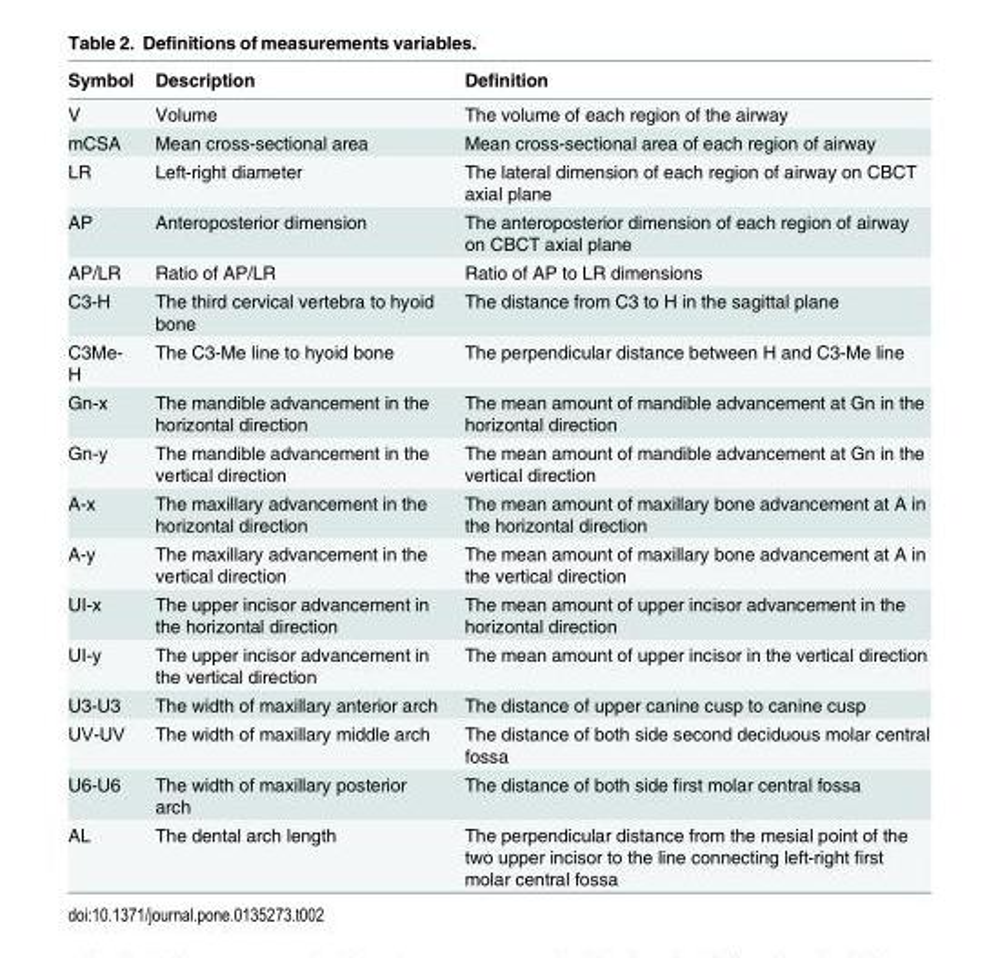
<table><thead><tr><td>Symbol</td><td>Description</td><td>Definition</td></tr></thead><tbody><tr><td>V</td><td>Volume</td><td>The volume of each region of the airway</td></tr><tr><td>mCSA</td><td>Mean cross-sectional area</td><td>Mean cross-sectional area of each region of airway</td></tr><tr><td>LR</td><td>Left-right diameter</td><td>The lateral dimension of each region of airway on CBCT axial plane</td></tr><tr><td>AP</td><td>Anteroposterior dimension</td><td>The anteroposterior dimension of each region of airway on CBCT axial plane</td></tr><tr><td>AP/LR</td><td>Ratio of AP/LR</td><td>Ratio of AP to LR dimensions</td></tr><tr><td>C3-H</td><td>The third cervical vertebra to hyoid bone</td><td>The distance from C3 to H in the sagittal plane</td></tr><tr><td>C3Me- H</td><td>The C3-Me line to hyoid bone</td><td>The perpendicular distance between H and C3-Me line</td></tr><tr><td>Gn-x</td><td>The mandible advancement in the horizontal direction</td><td>The mean amount of mandible advancement at Gn in the horizontal direction</td></tr><tr><td>Gn-y</td><td>The mandible advancement in the vertical direction</td><td>The mean amount of mandible advancement at Gn in the vertical direction</td></tr><tr><td>A-x</td><td>The maxillary advancement in the horizontal direction</td><td>The mean amount of maxillary bone advancement at A in the horizontal direction</td></tr><tr><td>A-y</td><td>The maxillary advancement in the vertical direction</td><td>The mean amount of maxillary bone advancement at A in the vertical direction</td></tr><tr><td>UI-x</td><td>The upper incisor advancement in the horizontal direction</td><td>The mean amount of upper incisor advancement in the horizontal direction</td></tr><tr><td>UI-y</td><td>The upper incisor advancement in the vertical direction</td><td>The mean amount of upper incisor in the vertical direction</td></tr><tr><td>U3-U3</td><td>The width of maxillary anterior arch</td><td>The distance of upper canine cusp to canine cusp</td></tr><tr><td>UⅤ-UⅤ</td><td>The width of maxillary middle arch</td><td>The distance of both side second deciduous molar central fossa</td></tr><tr><td>U6-U6</td><td>The width of maxillary posterior arch</td><td>The distance of both side first molar central fossa</td></tr><tr><td>AL</td><td>The dental arch length</td><td>The perpendicular distance from the mesial point of the two upper incisor to the line connecting left-right first molar central fossa</td></tr></tbody></table>